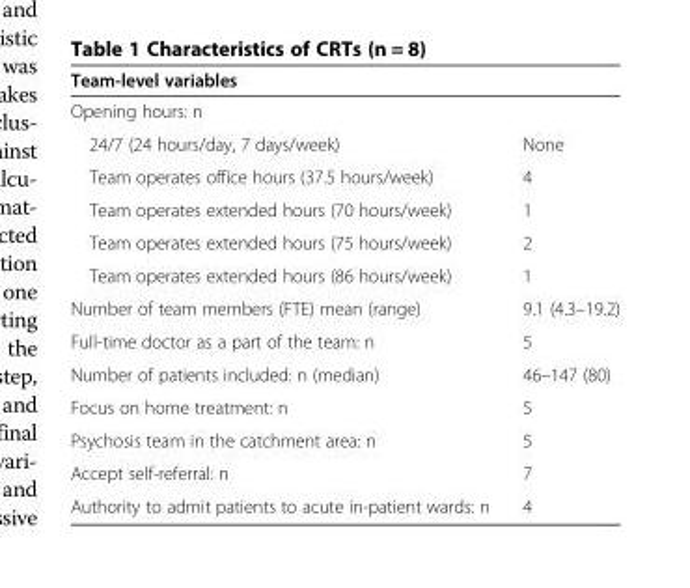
<table><thead><tr><td>Team-level variables</td><td></td></tr></thead><tbody><tr><td colspan="2">Opening hours: n</td></tr><tr><td>24/7 (24 hours/day, 7 days/week)</td><td>None</td></tr><tr><td>Team operates office hours (37.5 hours/week)</td><td>4</td></tr><tr><td>Team operates extended hours (70 hours/week)</td><td>1</td></tr><tr><td>Team operates extended hours (75 hours/week)</td><td>2</td></tr><tr><td>Team operates extended hours (86 hours/week)</td><td>1</td></tr><tr><td>Number of team members (FTE) mean (range)</td><td>9.1 (4.3–19.2)</td></tr><tr><td>Full-time doctor as a part of the team: n</td><td>5</td></tr><tr><td>Number of patients included: n (median)</td><td>46–147 (80)</td></tr><tr><td>Focus on home treatment: n</td><td>5</td></tr><tr><td>Psychosis team in the catchment area: n</td><td>5</td></tr><tr><td>Accept self-referral: n</td><td>7</td></tr><tr><td>Authority to admit patients to acute in-patient wards: n</td><td>4</td></tr></tbody></table>